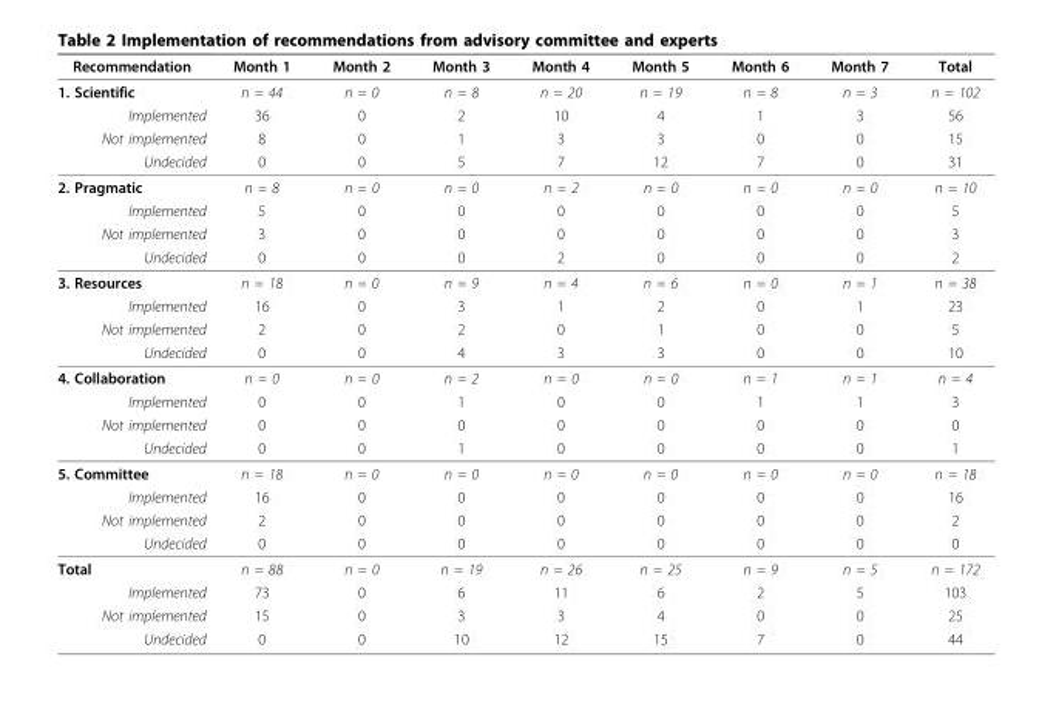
<table><thead><tr><td>Recommendation</td><td>Month 1</td><td>Month 2</td><td>Month 3</td><td>Month 4</td><td>Month 5</td><td>Month 6</td><td>Month 7</td><td>Total</td></tr></thead><tbody><tr><td>1. Scientific</td><td>n = 44</td><td>n = 0</td><td>n = 8</td><td>n = 20</td><td>n = 19</td><td>n = 8</td><td>n = 3</td><td>n = 102</td></tr><tr><td>Implemented</td><td>36</td><td>0</td><td>2</td><td>10</td><td>4</td><td>1</td><td>3</td><td>56</td></tr><tr><td>Not implemented</td><td>8</td><td>0</td><td>1</td><td>3</td><td>3</td><td>0</td><td>0</td><td>15</td></tr><tr><td>Undecided</td><td>0</td><td>0</td><td>5</td><td>7</td><td>12</td><td>7</td><td>0</td><td>31</td></tr><tr><td>2. Pragmatic</td><td>n = 8</td><td>n = 0</td><td>n = 0</td><td>n = 2</td><td>n = 0</td><td>n = 0</td><td>n = 0</td><td>n = 10</td></tr><tr><td>Implemented</td><td>5</td><td>0</td><td>0</td><td>0</td><td>0</td><td>0</td><td>0</td><td>5</td></tr><tr><td>Not implemented</td><td>3</td><td>0</td><td>0</td><td>0</td><td>0</td><td>0</td><td>0</td><td>3</td></tr><tr><td>Undecided</td><td>0</td><td>0</td><td>0</td><td>2</td><td>0</td><td>0</td><td>0</td><td>2</td></tr><tr><td>3. Resources</td><td>n = 18</td><td>n = 0</td><td>n = 9</td><td>n = 4</td><td>n = 6</td><td>n = 0</td><td>n = 1</td><td>n = 38</td></tr><tr><td>Implemented</td><td>16</td><td>0</td><td>3</td><td>1</td><td>2</td><td>0</td><td>1</td><td>23</td></tr><tr><td>Not implemented</td><td>2</td><td>0</td><td>2</td><td>0</td><td>1</td><td>0</td><td>0</td><td>5</td></tr><tr><td>Undecided</td><td>0</td><td>0</td><td>4</td><td>3</td><td>3</td><td>0</td><td>0</td><td>10</td></tr><tr><td>4. Collaboration</td><td>n = 0</td><td>n = 0</td><td>n = 2</td><td>n = 0</td><td>n = 0</td><td>n = 1</td><td>n = 1</td><td>n = 4</td></tr><tr><td>Implemented</td><td>0</td><td>0</td><td>1</td><td>0</td><td>0</td><td>1</td><td>1</td><td>3</td></tr><tr><td>Not implemented</td><td>0</td><td>0</td><td>0</td><td>0</td><td>0</td><td>0</td><td>0</td><td>0</td></tr><tr><td>Undecided</td><td>0</td><td>0</td><td>1</td><td>0</td><td>0</td><td>0</td><td>0</td><td>1</td></tr><tr><td>5. Committee</td><td>n = 18</td><td>n = 0</td><td>n = 0</td><td>n = 0</td><td>n = 0</td><td>n = 0</td><td>n = 0</td><td>n = 18</td></tr><tr><td>Implemented</td><td>16</td><td>0</td><td>0</td><td>0</td><td>0</td><td>0</td><td>0</td><td>16</td></tr><tr><td>Not implemented</td><td>2</td><td>0</td><td>0</td><td>0</td><td>0</td><td>0</td><td>0</td><td>2</td></tr><tr><td>Undecided</td><td>0</td><td>0</td><td>0</td><td>0</td><td>0</td><td>0</td><td>0</td><td>0</td></tr><tr><td>Total</td><td>n = 88</td><td>n = 0</td><td>n = 19</td><td>n = 26</td><td>n = 25</td><td>n = 9</td><td>n = 5</td><td>n = 172</td></tr><tr><td>Implemented</td><td>73</td><td>0</td><td>6</td><td>11</td><td>6</td><td>2</td><td>5</td><td>103</td></tr><tr><td>Not implemented</td><td>15</td><td>0</td><td>3</td><td>3</td><td>4</td><td>0</td><td>0</td><td>25</td></tr><tr><td>Undecided</td><td>0</td><td>0</td><td>10</td><td>12</td><td>15</td><td>7</td><td>0</td><td>44</td></tr></tbody></table>